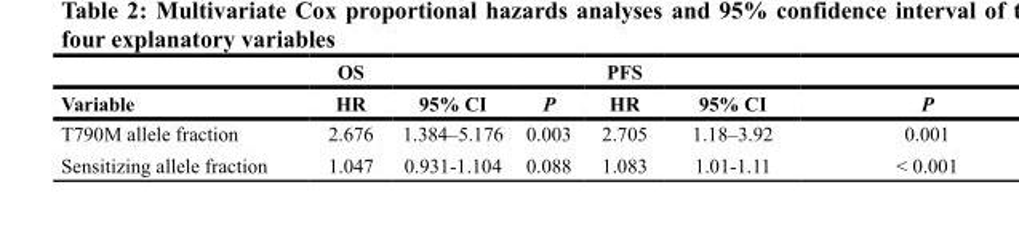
<table><thead><tr><td rowspan="2">Variable</td><td rowspan="2">OS HR</td><td rowspan="2">95% CI</td><td rowspan="2">P</td><td rowspan="2">PFS HR</td><td rowspan="2">95% CI</td><td rowspan="2">P</td></tr><tr></tr></thead><tbody><tr><td>T790M allele fraction</td><td>2.676</td><td>1.384–5.176</td><td>0.003</td><td>2.705</td><td>1.18–3.92</td><td>0.001</td></tr><tr><td>Sensitizing allele fraction</td><td>1.047</td><td>0.931-1.104</td><td>0.088</td><td>1.083</td><td>1.01-1.11</td><td>&lt; 0.001</td></tr></tbody></table>